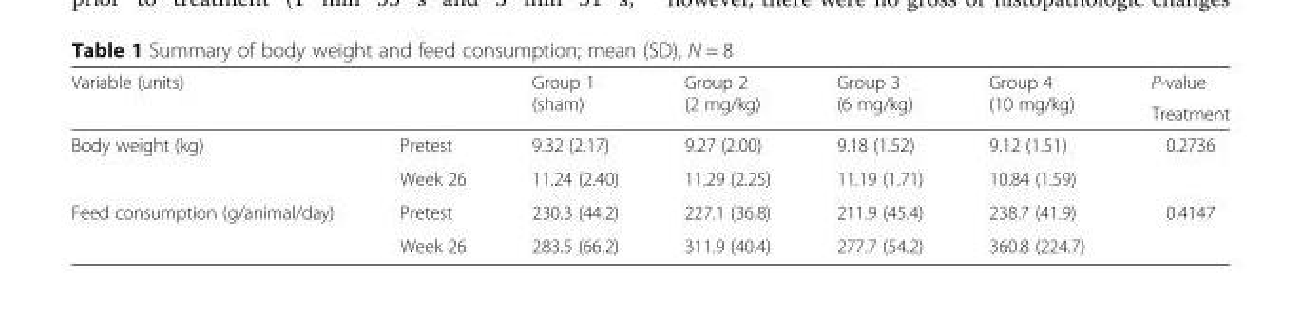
<table><thead><tr><td rowspan="2">Variable (units)</td><td rowspan="2"></td><td rowspan="2">Group 1 (sham)</td><td rowspan="2">Group 2 (2 mg/kg)</td><td rowspan="2">Group 3 (6 mg/kg)</td><td rowspan="2">Group 4 (10 mg/kg)</td><td rowspan="2">P-value Treatment</td></tr><tr></tr></thead><tbody><tr><td rowspan="2">Body weight (kg)</td><td>Pretest</td><td>9.32 (2.17)</td><td>9.27 (2.00)</td><td>9.18 (1.52)</td><td>9.12 (1.51)</td><td rowspan="2">0.2736</td></tr><tr><td>Week 26</td><td>11.24 (2.40)</td><td>11.29 (2.25)</td><td>11.19 (1.71)</td><td>10.84 (1.59)</td></tr><tr><td rowspan="2">Feed consumption (g/animal/day)</td><td>Pretest</td><td>230.3 (44.2)</td><td>227.1 (36.8)</td><td>211.9 (45.4)</td><td>238.7 (41.9)</td><td rowspan="2">0.4147</td></tr><tr><td>Week 26</td><td>283.5 (66.2)</td><td>311.9 (40.4)</td><td>277.7 (54.2)</td><td>360.8 (224.7)</td></tr></tbody></table>